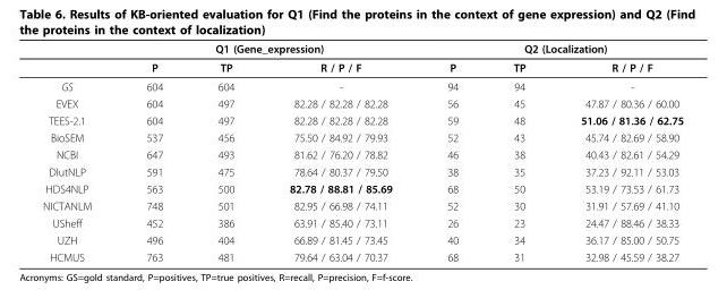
<table><thead><tr><td rowspan="2"></td><td colspan="3">Q1 (Gene_expression)</td><td colspan="3">Q2 (Localization)</td></tr><tr><td>P</td><td>TP</td><td>R / P / F</td><td>P</td><td>TP</td><td>R / P / F</td></tr></thead><tbody><tr><td>GS</td><td>604</td><td>604</td><td>-</td><td>94</td><td>94</td><td>-</td></tr><tr><td>EVEX</td><td>604</td><td>497</td><td>82.28 / 82.28 / 82.28</td><td>56</td><td>45</td><td>47.87 / 80.36 / 60.00</td></tr><tr><td>TEES-2.1</td><td>604</td><td>497</td><td>82.28 / 82.28 / 82.28</td><td>59</td><td>48</td><td>51.06 / 81.36 / 62.75</td></tr><tr><td>BioSEM</td><td>537</td><td>456</td><td>75.50 / 84.92 / 79.93</td><td>52</td><td>43</td><td>45.74 / 82.69 / 58.90</td></tr><tr><td>NCBI</td><td>647</td><td>493</td><td>81.62 / 76.20 / 78.82</td><td>46</td><td>38</td><td>40.43 / 82.61 / 54.29</td></tr><tr><td>DlutNLP</td><td>591</td><td>475</td><td>78.64 / 80.37 / 79.50</td><td>38</td><td>35</td><td>37.23 / 92.11 / 53.03</td></tr><tr><td>HDS4NLP</td><td>563</td><td>500</td><td>82.78 / 88.81 / 85.69</td><td>68</td><td>50</td><td>53.19 / 73.53 / 61.73</td></tr><tr><td>NICTANLM</td><td>748</td><td>501</td><td>82.95 / 66.98 / 74.11</td><td>52</td><td>30</td><td>31.91 / 57.69 / 41.10</td></tr><tr><td>USheff</td><td>452</td><td>386</td><td>63.91 / 85.40 / 73.11</td><td>26</td><td>23</td><td>24.47 / 88.46 / 38.33</td></tr><tr><td>UZH</td><td>496</td><td>404</td><td>66.89 / 81.45 / 73.45</td><td>40</td><td>34</td><td>36.17 / 85.00 / 50.75</td></tr><tr><td>HCMUS</td><td>763</td><td>481</td><td>79.64 / 63.04 / 70.37</td><td>68</td><td>31</td><td>32.98 / 45.59 / 38.27</td></tr></tbody></table>